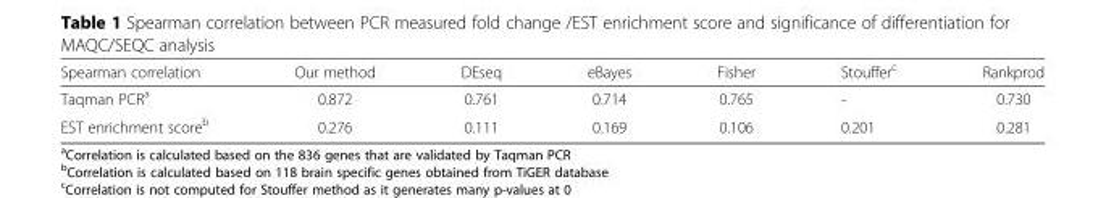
<table><thead><tr><td>Spearman correlation</td><td>Our method</td><td>DEseq</td><td>eBayes</td><td>Fisher</td><td>Stouffer<sup>c</sup></td><td>Rankprod</td></tr></thead><tbody><tr><td>Taqman PCR<sup>a</sup></td><td>0.872</td><td>0.761</td><td>0.714</td><td>0.765</td><td>-</td><td>0.730</td></tr><tr><td>EST enrichment score<sup>b</sup></td><td>0.276</td><td>0.111</td><td>0.169</td><td>0.106</td><td>0.201</td><td>0.281</td></tr></tbody></table>